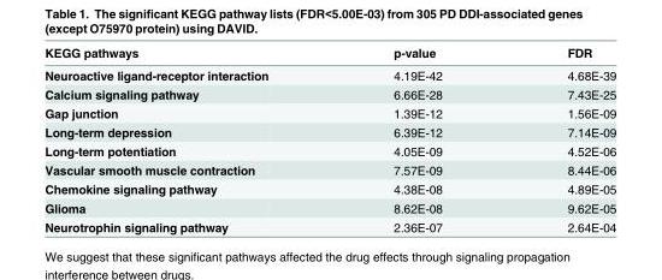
<table><thead><tr><td>KEGG pathways</td><td>p-value</td><td>FDR</td></tr></thead><tbody><tr><td>Neuroactive ligand-receptor interaction</td><td>4.19E-42</td><td>4.68E-39</td></tr><tr><td>Calcium signaling pathway</td><td>6.66E-28</td><td>7.43E-25</td></tr><tr><td>Gap junction</td><td>1.39E-12</td><td>1.56E-09</td></tr><tr><td>Long-term depression</td><td>6.39E-12</td><td>7.14E-09</td></tr><tr><td>Long-term potentiation</td><td>4.05E-09</td><td>4.52E-06</td></tr><tr><td>Vascular smooth muscle contraction</td><td>7.57E-09</td><td>8.44E-06</td></tr><tr><td>Chemokine signaling pathway</td><td>4.38E-08</td><td>4.89E-05</td></tr><tr><td>Glioma</td><td>8.62E-08</td><td>9.62E-05</td></tr><tr><td>Neurotrophin signaling pathway</td><td>2.36E-07</td><td>2.64E-04</td></tr></tbody></table>